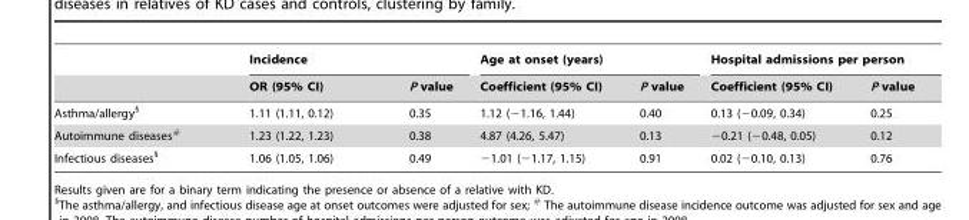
<table><thead><tr><td rowspan="2"></td><td colspan="2">Incidence</td><td colspan="2">Age at onset (years)</td><td colspan="2">Hospital admissions per person</td></tr><tr><td>OR (95% CI)</td><td>P value</td><td>Coefficient (95% CI)</td><td>P value</td><td>Coefficient (95% CI)</td><td>P value</td></tr></thead><tbody><tr><td>Asthma/allergy§</td><td>1.11 (1.11, 0.12)</td><td>0.35</td><td>1.12 (−1.16, 1.44)</td><td>0.40</td><td>0.13 (−0.09, 0.34)</td><td>0.25</td></tr><tr><td>Autoimmune diseases<sup>#</sup></td><td>1.23 (1.22, 1.23)</td><td>0.38</td><td>4.87 (4.26, 5.47)</td><td>0.13</td><td>−0.21 (−0.48, 0.05)</td><td>0.12</td></tr><tr><td>Infectious diseases§</td><td>1.06 (1.05, 1.06)</td><td>0.49</td><td>−1.01 (−1.17, 1.15)</td><td>0.91</td><td>0.02 (−0.10, 0.13)</td><td>0.76</td></tr></tbody></table>